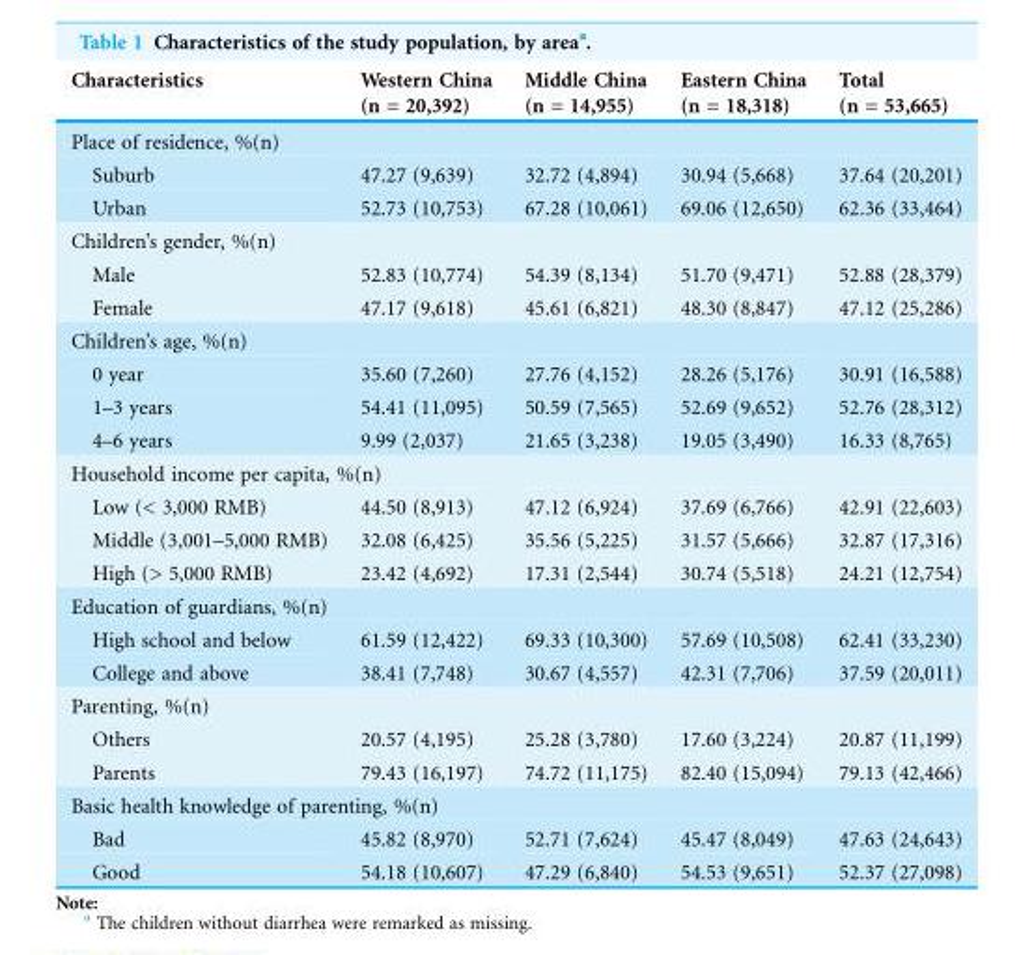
<table><thead><tr><td>Characteristics</td><td>Western China (n = 20,392)</td><td>Middle China (n = 14,955)</td><td>Eastern China (n = 18,318)</td><td>Total (n = 53,665)</td></tr></thead><tbody><tr><td colspan="5">Place of residence, %(n)</td></tr><tr><td>Suburb</td><td>47.27 (9,639)</td><td>32.72 (4,894)</td><td>30.94 (5,668)</td><td>37.64 (20,201)</td></tr><tr><td>Urban</td><td>52.73 (10,753)</td><td>67.28 (10,061)</td><td>69.06 (12,650)</td><td>62.36 (33,464)</td></tr><tr><td colspan="5">Children’s gender, %(n)</td></tr><tr><td>Male</td><td>52.83 (10,774)</td><td>54.39 (8,134)</td><td>51.70 (9,471)</td><td>52.88 (28,379)</td></tr><tr><td>Female</td><td>47.17 (9,618)</td><td>45.61 (6,821)</td><td>48.30 (8,847)</td><td>47.12 (25,286)</td></tr><tr><td colspan="5">Children’s age, %(n)</td></tr><tr><td>0 year</td><td>35.60 (7,260)</td><td>27.76 (4,152)</td><td>28.26 (5,176)</td><td>30.91 (16,588)</td></tr><tr><td>1–3 years</td><td>54.41 (11,095)</td><td>50.59 (7,565)</td><td>52.69 (9,652)</td><td>52.76 (28,312)</td></tr><tr><td>4–6 years</td><td>9.99 (2,037)</td><td>21.65 (3,238)</td><td>19.05 (3,490)</td><td>16.33 (8,765)</td></tr><tr><td colspan="5">Household income per capita, %(n)</td></tr><tr><td>Low (&lt; 3,000 RMB)</td><td>44.50 (8,913)</td><td>47.12 (6,924)</td><td>37.69 (6,766)</td><td>42.91 (22,603)</td></tr><tr><td>Middle (3,001–5,000 RMB)</td><td>32.08 (6,425)</td><td>35.56 (5,225)</td><td>31.57 (5,666)</td><td>32.87 (17,316)</td></tr><tr><td>High (&gt; 5,000 RMB)</td><td>23.42 (4,692)</td><td>17.31 (2,544)</td><td>30.74 (5,518)</td><td>24.21 (12,754)</td></tr><tr><td colspan="5">Education of guardians, %(n)</td></tr><tr><td>High school and below</td><td>61.59 (12,422)</td><td>69.33 (10,300)</td><td>57.69 (10,508)</td><td>62.41 (33,230)</td></tr><tr><td>College and above</td><td>38.41 (7,748)</td><td>30.67 (4,557)</td><td>42.31 (7,706)</td><td>37.59 (20,011)</td></tr><tr><td colspan="5">Parenting, %(n)</td></tr><tr><td>Others</td><td>20.57 (4,195)</td><td>25.28 (3,780)</td><td>17.60 (3,224)</td><td>20.87 (11,199)</td></tr><tr><td>Parents</td><td>79.43 (16,197)</td><td>74.72 (11,175)</td><td>82.40 (15,094)</td><td>79.13 (42,466)</td></tr><tr><td colspan="5">Basic health knowledge of parenting, %(n)</td></tr><tr><td>Bad</td><td>45.82 (8,970)</td><td>52.71 (7,624)</td><td>45.47 (8,049)</td><td>47.63 (24,643)</td></tr><tr><td>Good</td><td>54.18 (10,607)</td><td>47.29 (6,840)</td><td>54.53 (9,651)</td><td>52.37 (27,098)</td></tr></tbody></table>